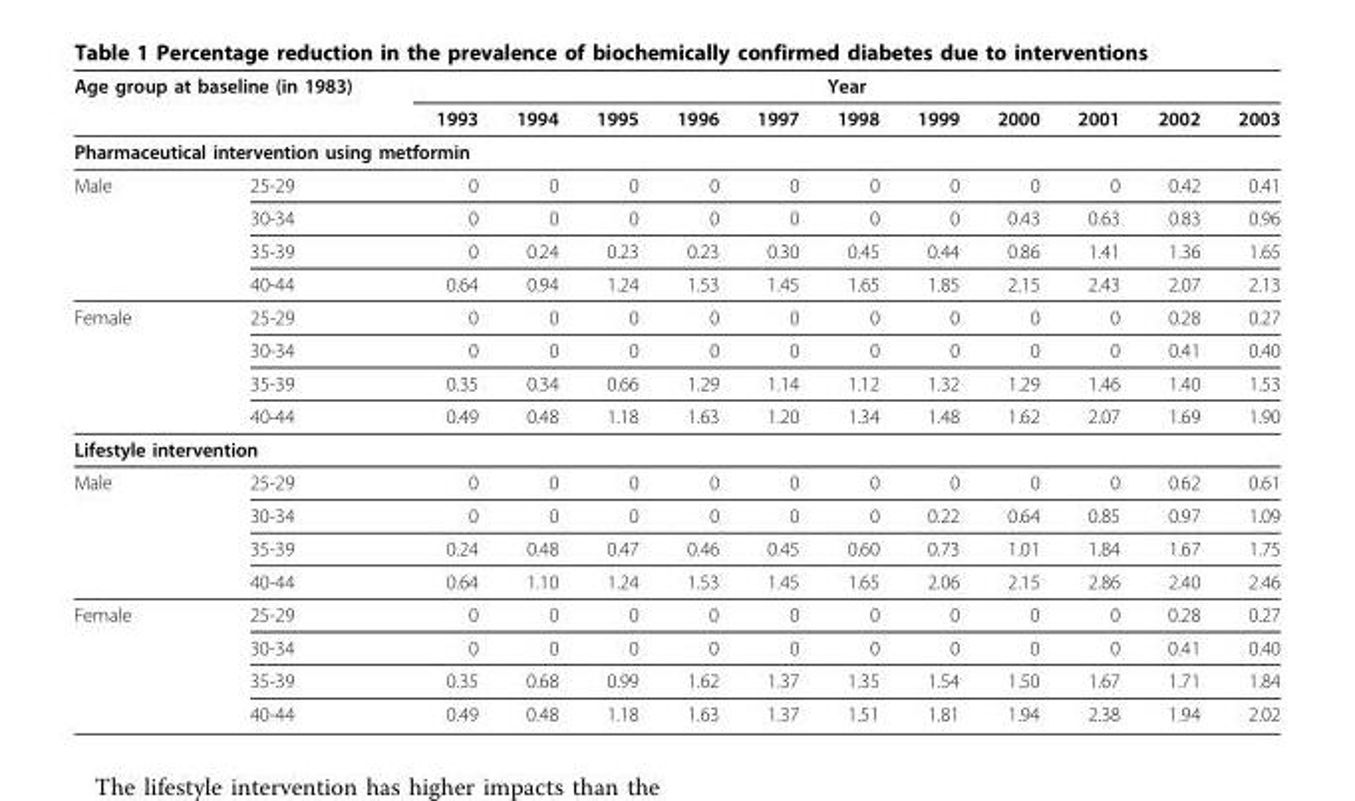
<table><thead><tr><td colspan="2">Age group at baseline (in 1983)</td><td colspan="11">Year</td></tr><tr><td></td><td></td><td>1993</td><td>1994</td><td>1995</td><td>1996</td><td>1997</td><td>1998</td><td>1999</td><td>2000</td><td>2001</td><td>2002</td><td>2003</td></tr></thead><tbody><tr><td colspan="13">Pharmaceutical intervention using metformin</td></tr><tr><td rowspan="4">Male</td><td>25-29</td><td>0</td><td>0</td><td>0</td><td>0</td><td>0</td><td>0</td><td>0</td><td>0</td><td>0</td><td>0.42</td><td>0.41</td></tr><tr><td>30-34</td><td>0</td><td>0</td><td>0</td><td>0</td><td>0</td><td>0</td><td>0</td><td>0.43</td><td>0.63</td><td>0.83</td><td>0.96</td></tr><tr><td>35-39</td><td>0</td><td>0.24</td><td>0.23</td><td>0.23</td><td>0.30</td><td>0.45</td><td>0.44</td><td>0.86</td><td>1.41</td><td>1.36</td><td>1.65</td></tr><tr><td>40-44</td><td>0.64</td><td>0.94</td><td>1.24</td><td>1.53</td><td>1.45</td><td>1.65</td><td>1.85</td><td>2.15</td><td>2.43</td><td>2.07</td><td>2.13</td></tr><tr><td rowspan="4">Female</td><td>25-29</td><td>0</td><td>0</td><td>0</td><td>0</td><td>0</td><td>0</td><td>0</td><td>0</td><td>0</td><td>0.28</td><td>0.27</td></tr><tr><td>30-34</td><td>0</td><td>0</td><td>0</td><td>0</td><td>0</td><td>0</td><td>0</td><td>0</td><td>0</td><td>0.41</td><td>0.40</td></tr><tr><td>35-39</td><td>0.35</td><td>0.34</td><td>0.66</td><td>1.29</td><td>1.14</td><td>1.12</td><td>1.32</td><td>1.29</td><td>1.46</td><td>1.40</td><td>1.53</td></tr><tr><td>40-44</td><td>0.49</td><td>0.48</td><td>1.18</td><td>1.63</td><td>1.20</td><td>1.34</td><td>1.48</td><td>1.62</td><td>2.07</td><td>1.69</td><td>1.90</td></tr><tr><td colspan="13">Lifestyle intervention</td></tr><tr><td rowspan="4">Male</td><td>25-29</td><td>0</td><td>0</td><td>0</td><td>0</td><td>0</td><td>0</td><td>0</td><td>0</td><td>0</td><td>0.62</td><td>0.61</td></tr><tr><td>30-34</td><td>0</td><td>0</td><td>0</td><td>0</td><td>0</td><td>0</td><td>0.22</td><td>0.64</td><td>0.85</td><td>0.97</td><td>1.09</td></tr><tr><td>35-39</td><td>0.24</td><td>0.48</td><td>0.47</td><td>0.46</td><td>0.45</td><td>0.60</td><td>0.73</td><td>1.01</td><td>1.84</td><td>1.67</td><td>1.75</td></tr><tr><td>40-44</td><td>0.64</td><td>1.10</td><td>1.24</td><td>1.53</td><td>1.45</td><td>1.65</td><td>2.06</td><td>2.15</td><td>2.86</td><td>2.40</td><td>2.46</td></tr><tr><td rowspan="4">Female</td><td>25-29</td><td>0</td><td>0</td><td>0</td><td>0</td><td>0</td><td>0</td><td>0</td><td>0</td><td>0</td><td>0.28</td><td>0.27</td></tr><tr><td>30-34</td><td>0</td><td>0</td><td>0</td><td>0</td><td>0</td><td>0</td><td>0</td><td>0</td><td>0</td><td>0.41</td><td>0.40</td></tr><tr><td>35-39</td><td>0.35</td><td>0.68</td><td>0.99</td><td>1.62</td><td>1.37</td><td>1.35</td><td>1.54</td><td>1.50</td><td>1.67</td><td>1.71</td><td>1.84</td></tr><tr><td>40-44</td><td>0.49</td><td>0.48</td><td>1.18</td><td>1.63</td><td>1.37</td><td>1.51</td><td>1.81</td><td>1.94</td><td>2.38</td><td>1.94</td><td>2.02</td></tr></tbody></table>